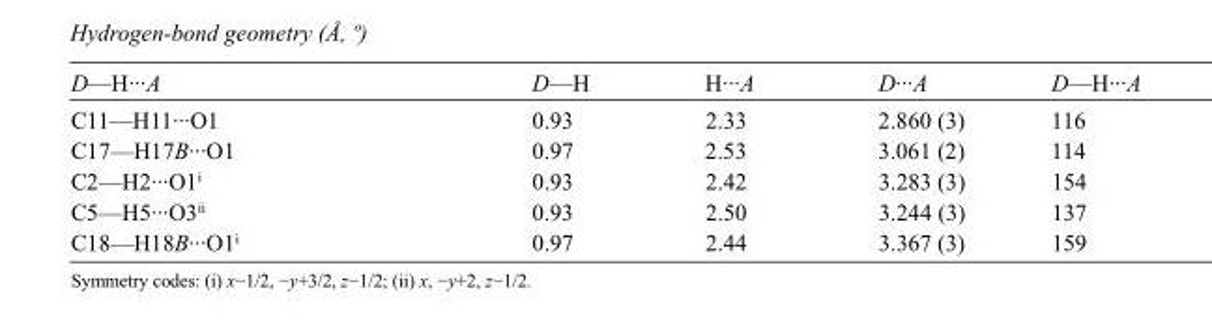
<table><tbody><tr><td>D—H···A</td><td>D—H</td><td>H···A</td><td>D···A</td><td>D—H···A</td></tr><tr><td>C11—H11···O1</td><td>0.93</td><td>2.33</td><td>2.860 (3)</td><td>116</td></tr><tr><td>C17—H17B···O1</td><td>0.97</td><td>2.53</td><td>3.061 (2)</td><td>114</td></tr><tr><td>C2—H2···O1<sup>i</sup></td><td>0.93</td><td>2.42</td><td>3.283 (3)</td><td>154</td></tr><tr><td>C5—H5···O3<sup>ii</sup></td><td>0.93</td><td>2.50</td><td>3.244 (3)</td><td>137</td></tr><tr><td>C18—H18B···O1<sup>i</sup></td><td>0.97</td><td>2.44</td><td>3.367 (3)</td><td>159</td></tr></tbody></table>